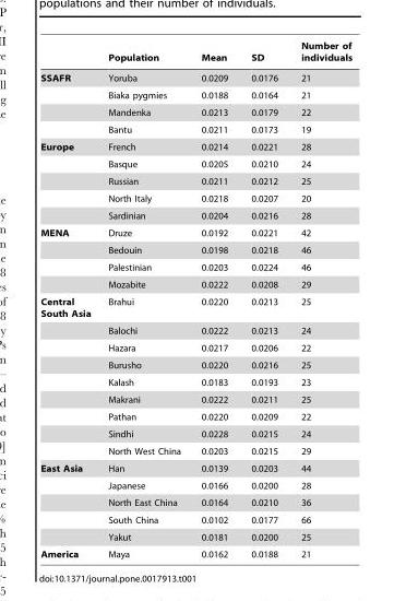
<table><thead><tr><td></td><td>Population</td><td>Mean</td><td>SD</td><td>Number of individuals</td></tr></thead><tbody><tr><td rowspan="4">SSAFR</td><td>Yoruba</td><td>0.0209</td><td>0.0176</td><td>21</td></tr><tr><td>Biaka pygmies</td><td>0.0188</td><td>0.0164</td><td>21</td></tr><tr><td>Mandenka</td><td>0.0213</td><td>0.0179</td><td>22</td></tr><tr><td>Bantu</td><td>0.0211</td><td>0.0173</td><td>19</td></tr><tr><td rowspan="5">Europe</td><td>French</td><td>0.0214</td><td>0.0221</td><td>28</td></tr><tr><td>Basque</td><td>0.0205</td><td>0.0210</td><td>24</td></tr><tr><td>Russian</td><td>0.0211</td><td>0.0212</td><td>25</td></tr><tr><td>North Italy</td><td>0.0218</td><td>0.0207</td><td>20</td></tr><tr><td>Sardinian</td><td>0.0204</td><td>0.0216</td><td>28</td></tr><tr><td rowspan="4">MENA</td><td>Druze</td><td>0.0192</td><td>0.0221</td><td>42</td></tr><tr><td>Bedouin</td><td>0.0198</td><td>0.0218</td><td>46</td></tr><tr><td>Palestinian</td><td>0.0203</td><td>0.0224</td><td>46</td></tr><tr><td>Mozabite</td><td>0.0222</td><td>0.0208</td><td>29</td></tr><tr><td rowspan="9">Central South Asia</td><td>Brahui</td><td>0.0220</td><td>0.0213</td><td>25</td></tr><tr><td>Balochi</td><td>0.0222</td><td>0.0213</td><td>24</td></tr><tr><td>Hazara</td><td>0.0217</td><td>0.0206</td><td>22</td></tr><tr><td>Burusho</td><td>0.0220</td><td>0.0216</td><td>25</td></tr><tr><td>Kalash</td><td>0.0183</td><td>0.0193</td><td>23</td></tr><tr><td>Makrani</td><td>0.0222</td><td>0.0211</td><td>25</td></tr><tr><td>Pathan</td><td>0.0220</td><td>0.0209</td><td>22</td></tr><tr><td>Sindhi</td><td>0.0228</td><td>0.0215</td><td>24</td></tr><tr><td>North West China</td><td>0.0203</td><td>0.0215</td><td>29</td></tr><tr><td rowspan="5">East Asia</td><td>Han</td><td>0.0139</td><td>0.0203</td><td>44</td></tr><tr><td>Japanese</td><td>0.0166</td><td>0.0200</td><td>28</td></tr><tr><td>North East China</td><td>0.0164</td><td>0.0210</td><td>36</td></tr><tr><td>South China</td><td>0.0102</td><td>0.0177</td><td>66</td></tr><tr><td>Yakut</td><td>0.0181</td><td>0.0200</td><td>25</td></tr><tr><td>America</td><td>Maya</td><td>0.0162</td><td>0.0188</td><td>21</td></tr></tbody></table>